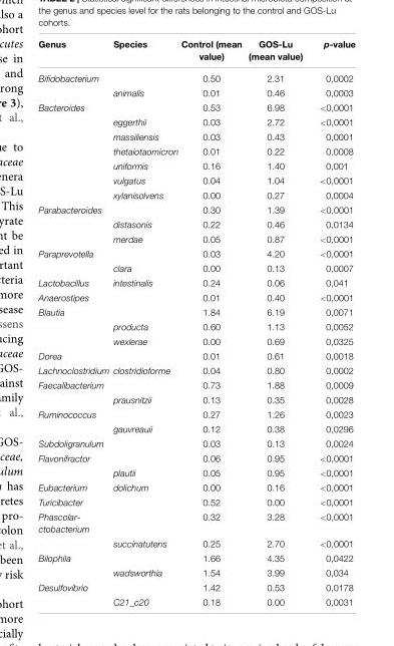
<table><thead><tr><td>Genus</td><td>Species</td><td>Control (mean value)</td><td>GOS-Lu (mean value)</td><td>p-value</td></tr></thead><tbody><tr><td rowspan="2">Bifidobacterium</td><td></td><td>0.50</td><td>2.31</td><td>0,0002</td></tr><tr><td>animalis</td><td>0.01</td><td>0.46</td><td>0,0003</td></tr><tr><td rowspan="7">Bacteroides</td><td></td><td>0.53</td><td>6.98</td><td>&lt;0,0001</td></tr><tr><td>eggerthii</td><td>0.03</td><td>2.72</td><td>&lt;0,0001</td></tr><tr><td>massiliensis</td><td>0.03</td><td>0.43</td><td>0,0001</td></tr><tr><td>thetaiotaomicron</td><td>0.01</td><td>0.22</td><td>0,0008</td></tr><tr><td>uniformis</td><td>0.16</td><td>1.40</td><td>0,001</td></tr><tr><td>vulgatus</td><td>0.04</td><td>1.04</td><td>&lt;0,0001</td></tr><tr><td>xylanisolvens</td><td>0.00</td><td>0.27</td><td>0,0004</td></tr><tr><td rowspan="3">Parabacteroides</td><td></td><td>0.30</td><td>1.39</td><td>&lt;0,0001</td></tr><tr><td>distasonis</td><td>0.22</td><td>0.46</td><td>0,0134</td></tr><tr><td>merdae</td><td>0.05</td><td>0.87</td><td>&lt;0,0001</td></tr><tr><td rowspan="2">Paraprevotella</td><td></td><td>0.03</td><td>4.20</td><td>&lt;0,0001</td></tr><tr><td>clara</td><td>0.00</td><td>0.13</td><td>0,0007</td></tr><tr><td>Lactobacillus</td><td>intestinalis</td><td>0.24</td><td>0.06</td><td>0,041</td></tr><tr><td>Anaerostipes</td><td></td><td>0.01</td><td>0.40</td><td>&lt;0,0001</td></tr><tr><td rowspan="3">Blautia</td><td></td><td>1.84</td><td>6.19</td><td>0,0071</td></tr><tr><td>producta</td><td>0.60</td><td>1.13</td><td>0,0052</td></tr><tr><td>wexlerae</td><td>0.00</td><td>0.69</td><td>0,0325</td></tr><tr><td>Dorea</td><td></td><td>0.01</td><td>0.61</td><td>0,0018</td></tr><tr><td>Lachnoclostridium</td><td>clostridioforme</td><td>0.04</td><td>0.80</td><td>0,0002</td></tr><tr><td rowspan="2">Faecalibacterium</td><td></td><td>0.73</td><td>1.88</td><td>0,0009</td></tr><tr><td>prausnitzii</td><td>0.13</td><td>0.35</td><td>0,0028</td></tr><tr><td rowspan="2">Ruminococcus</td><td></td><td>0.27</td><td>1.26</td><td>0,0023</td></tr><tr><td>gauvreauii</td><td>0.12</td><td>0.38</td><td>0,0296</td></tr><tr><td>Subdoligranulum</td><td></td><td>0.03</td><td>0.13</td><td>0,0024</td></tr><tr><td rowspan="2">Flavonifractor</td><td></td><td>0.06</td><td>0.95</td><td>&lt;0,0001</td></tr><tr><td>plautii</td><td>0.05</td><td>0.95</td><td>&lt;0,0001</td></tr><tr><td>Eubacterium</td><td>dolichum</td><td>0.00</td><td>0.16</td><td>&lt;0,0001</td></tr><tr><td>Turicibacter</td><td></td><td>0.52</td><td>0.00</td><td>&lt;0,0001</td></tr><tr><td rowspan="2">Phascolar- ctobacterium</td><td></td><td>0.32</td><td>3.28</td><td>&lt;0,0001</td></tr><tr><td>succinatutens</td><td>0.25</td><td>2.70</td><td>&lt;0,0001</td></tr><tr><td rowspan="2">Bilophila</td><td></td><td>1.66</td><td>4.35</td><td>0,0422</td></tr><tr><td>wadsworthia</td><td>1.54</td><td>3.99</td><td>0,034</td></tr><tr><td rowspan="2">Desulfovibrio</td><td></td><td>1.42</td><td>0.53</td><td>0,0178</td></tr><tr><td>C21_c20</td><td>0.18</td><td>0.00</td><td>0,0031</td></tr></tbody></table>